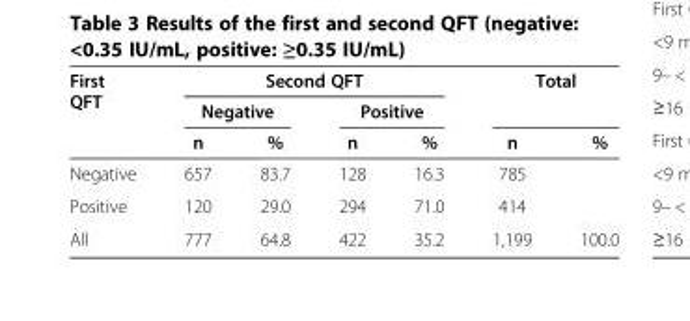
<table><thead><tr><td rowspan="3">First QFT</td><td colspan="4">Second QFT</td><td rowspan="2" colspan="2">Total</td></tr><tr><td colspan="2">Negative</td><td colspan="2">Positive</td></tr><tr><td>n</td><td>%</td><td>n</td><td>%</td><td>n</td><td>%</td></tr></thead><tbody><tr><td>Negative</td><td>657</td><td>83.7</td><td>128</td><td>16.3</td><td>785</td><td></td></tr><tr><td>Positive</td><td>120</td><td>29.0</td><td>294</td><td>71.0</td><td>414</td><td></td></tr><tr><td>All</td><td>777</td><td>64.8</td><td>422</td><td>35.2</td><td>1,199</td><td>100.0</td></tr></tbody></table>